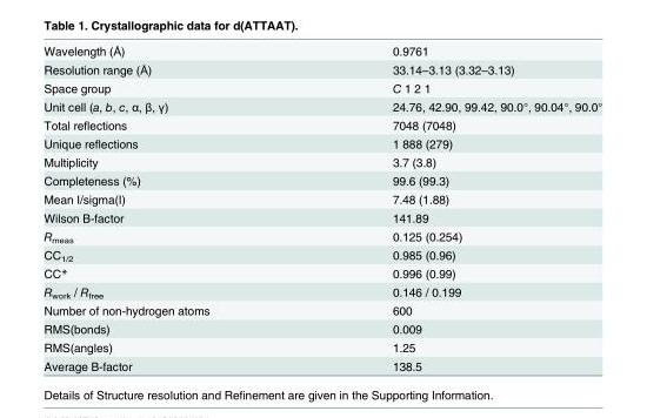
<table><tbody><tr><td>Wavelength (Å)</td><td>0.9761</td></tr><tr><td>Resolution range (Å)</td><td>33.14–3.13 (3.32–3.13)</td></tr><tr><td>Space group</td><td>C 1 2 1</td></tr><tr><td>Unit cell (a, b, c, α, β, γ)</td><td>24.76, 42.90, 99.42, 90.0°, 90.04°, 90.0°</td></tr><tr><td>Total reflections</td><td>7048 (7048)</td></tr><tr><td>Unique reflections</td><td>1 888 (279)</td></tr><tr><td>Multiplicity</td><td>3.7 (3.8)</td></tr><tr><td>Completeness (%)</td><td>99.6 (99.3)</td></tr><tr><td>Mean I/sigma(I)</td><td>7.48 (1.88)</td></tr><tr><td>Wilson B-factor</td><td>141.89</td></tr><tr><td>R<sub>meas</sub></td><td>0.125 (0.254)</td></tr><tr><td>CC<sub>1/2</sub></td><td>0.985 (0.96)</td></tr><tr><td>CC*</td><td>0.996 (0.99)</td></tr><tr><td>R<sub>work</sub> / R<sub>free</sub></td><td>0.146 / 0.199</td></tr><tr><td>Number of non-hydrogen atoms</td><td>600</td></tr><tr><td>RMS(bonds)</td><td>0.009</td></tr><tr><td>RMS(angles)</td><td>1.25</td></tr><tr><td>Average B-factor</td><td>138.5</td></tr></tbody></table>